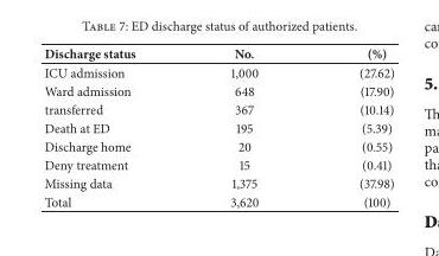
<table><thead><tr><td>Discharge status</td><td>No.</td><td>(%)</td></tr></thead><tbody><tr><td>ICU admission</td><td>1,000</td><td>(27.62)</td></tr><tr><td>Ward admission</td><td>648</td><td>(17.90)</td></tr><tr><td>transferred</td><td>367</td><td>(10.14)</td></tr><tr><td>Death at ED</td><td>195</td><td>(5.39)</td></tr><tr><td>Discharge home</td><td>20</td><td>(0.55)</td></tr><tr><td>Deny treatment</td><td>15</td><td>(0.41)</td></tr><tr><td>Missing data</td><td>1,375</td><td>(37.98)</td></tr><tr><td>Total</td><td>3,620</td><td>(100)</td></tr></tbody></table>